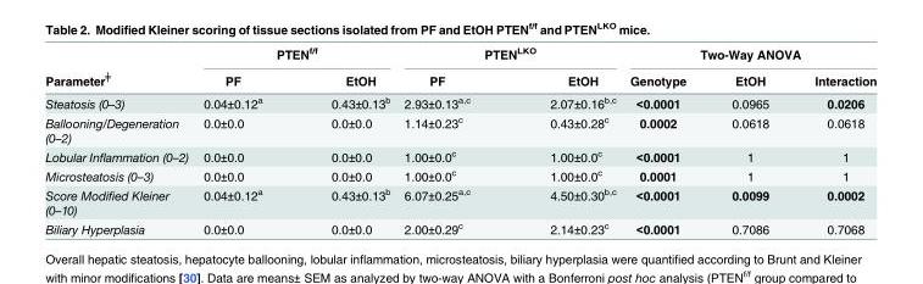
<table><thead><tr><td rowspan="2">Parameter<sup>╪</sup></td><td rowspan="2">PF</td><td rowspan="2">PTEN<sup>f/f</sup></td><td rowspan="2">EtOH</td><td rowspan="2">PF</td><td rowspan="2">PTEN<sup>LKO</sup></td><td rowspan="2">EtOH</td><td rowspan="2">Genotype</td><td rowspan="2">Two-Way ANOVA EtOH</td><td rowspan="2">Interaction</td></tr><tr></tr></thead><tbody><tr><td>Steatosis (0–3)</td><td>0.04±0.12<sup>a</sup></td><td></td><td>0.43±0.13<sup>b</sup></td><td>2.93±0.13<sup>a,c</sup></td><td></td><td>2.07±0.16<sup>b,c</sup></td><td>&lt;0.0001</td><td>0.0965</td><td>0.0206</td></tr><tr><td>Ballooning/Degeneration (0–2)</td><td>0.0±0.0</td><td></td><td>0.0±0.0</td><td>1.14±0.23<sup>c</sup></td><td></td><td>0.43±0.28<sup>c</sup></td><td>0.0002</td><td>0.0618</td><td>0.0618</td></tr><tr><td>Lobular Inflammation (0–2)</td><td>0.0±0.0</td><td></td><td>0.0±0.0</td><td>1.00±0.0<sup>c</sup></td><td></td><td>1.00±0.0<sup>c</sup></td><td>&lt;0.0001</td><td>1</td><td>1</td></tr><tr><td>Microsteatosis (0–3)</td><td>0.0±0.0</td><td></td><td>0.0±0.0</td><td>1.00±0.0<sup>c</sup></td><td></td><td>1.00±0.0<sup>c</sup></td><td>0.0001</td><td>1</td><td>1</td></tr><tr><td>Score Modified Kleiner (0–10)</td><td>0.04±0.12<sup>a</sup></td><td></td><td>0.43±0.13<sup>b</sup></td><td>6.07±0.25<sup>a,c</sup></td><td></td><td>4.50±0.30<sup>b,c</sup></td><td>&lt;0.0001</td><td>0.0099</td><td>0.0002</td></tr><tr><td>Biliary Hyperplasia</td><td>0.0±0.0</td><td></td><td>0.0±0.0</td><td>2.00±0.29<sup>c</sup></td><td></td><td>2.14±0.23<sup>c</sup></td><td>&lt;0.0001</td><td>0.7086</td><td>0.7068</td></tr></tbody></table>